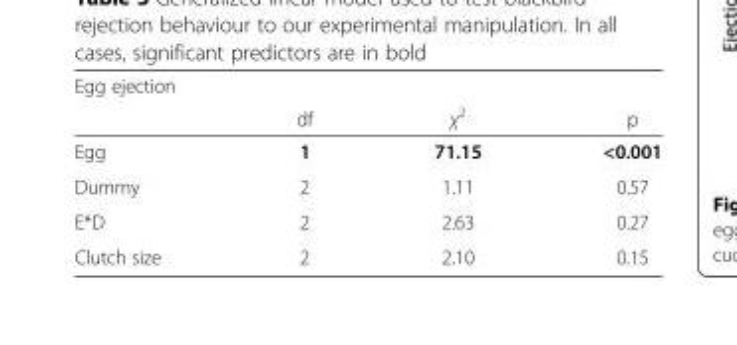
<table><thead><tr><td rowspan="2">Egg ejection</td><td rowspan="2">df</td><td rowspan="2">χ<sup>2</sup></td><td rowspan="2">p</td></tr><tr></tr></thead><tbody><tr><td>Egg</td><td>1</td><td>71.15</td><td>&lt;0.001</td></tr><tr><td>Dummy</td><td>2</td><td>1.11</td><td>0.57</td></tr><tr><td>E*D</td><td>2</td><td>2.63</td><td>0.27</td></tr><tr><td>Clutch size</td><td>2</td><td>2.10</td><td>0.15</td></tr></tbody></table>